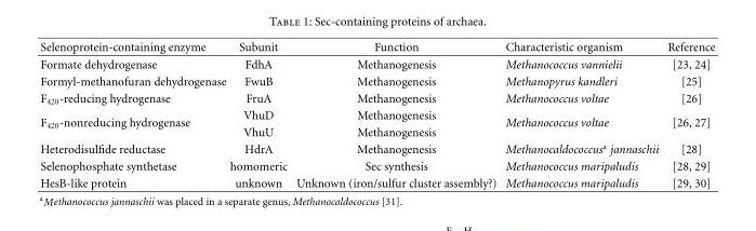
<table><thead><tr><td>Selenoprotein-containing enzyme</td><td>Subunit</td><td>Function</td><td>Characteristic organism</td><td>Reference</td></tr></thead><tbody><tr><td>Formate dehydrogenase</td><td>FdhA</td><td>Methanogenesis</td><td>Methanococcus vannielii</td><td>[23, 24]</td></tr><tr><td>Formyl-methanofuran dehydrogenase</td><td>FwuB</td><td>Methanogenesis</td><td>Methanopyrus kandleri</td><td>[25]</td></tr><tr><td>F<sub>420</sub>-reducing hydrogenase</td><td>FruA</td><td>Methanogenesis</td><td>Methanococcus voltae</td><td>[26]</td></tr><tr><td rowspan="2">F<sub>420</sub>-nonreducing hydrogenase</td><td>VhuD</td><td>Methanogenesis</td><td rowspan="2">Methanococcus voltae</td><td rowspan="2">[26, 27]</td></tr><tr><td>VhuU</td><td>Methanogenesis</td></tr><tr><td>Heterodisulfide reductase</td><td>HdrA</td><td>Methanogenesis</td><td>Methanocaldococcus<sup>a</sup> jannaschii</td><td>[28]</td></tr><tr><td>Selenophosphate synthetase</td><td>homomeric</td><td>Sec synthesis</td><td>Methanococcus maripaludis</td><td>[28, 29]</td></tr><tr><td>HesB-like protein</td><td>unknown</td><td>Unknown (iron/sulfur cluster assembly?)</td><td>Methanococcus maripaludis</td><td>[29, 30]</td></tr></tbody></table>